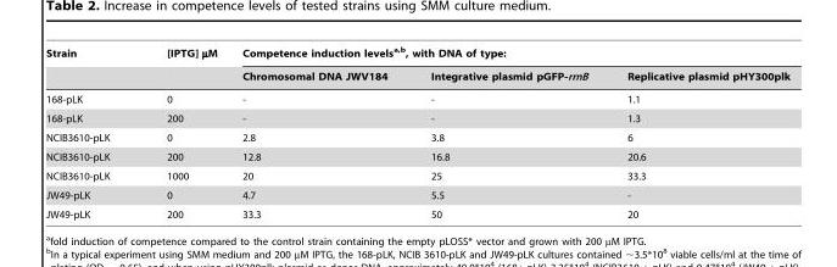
<table><thead><tr><td rowspan="2">Strain</td><td rowspan="2">[IPTG] µM</td><td colspan="3">Competence induction levelsa,b, with DNA of type:</td></tr><tr><td>Chromosomal DNA JWV184</td><td>Integrative plasmid pGFP-rrnB</td><td>Replicative plasmid pHY300plk</td></tr></thead><tbody><tr><td>168-pLK</td><td>0</td><td>-</td><td>-</td><td>1.1</td></tr><tr><td>168-pLK</td><td>200</td><td>-</td><td>-</td><td>1.3</td></tr><tr><td>NCIB3610-pLK</td><td>0</td><td>2.8</td><td>3.8</td><td>6</td></tr><tr><td>NCIB3610-pLK</td><td>200</td><td>12.8</td><td>16.8</td><td>20.6</td></tr><tr><td>NCIB3610-pLK</td><td>1000</td><td>20</td><td>25</td><td>33.3</td></tr><tr><td>JW49-pLK</td><td>0</td><td>4.7</td><td>5.5</td><td>-</td></tr><tr><td>JW49-pLK</td><td>200</td><td>33.3</td><td>50</td><td>20</td></tr></tbody></table>